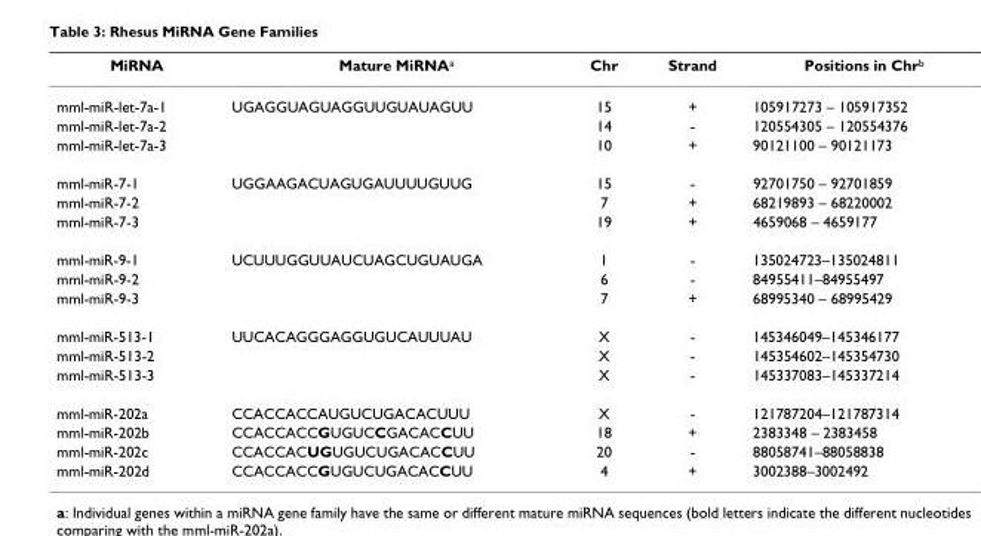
<table><thead><tr><td>MiRNA</td><td>Mature MiRNA<sup>a</sup></td><td>Chr</td><td>Strand</td><td>Positions in Chr<sup>b</sup></td></tr></thead><tbody><tr><td>mml-miR-let-7a-1</td><td>UGAGGUAGUAGGUUGUAUAGUU</td><td>15</td><td>+</td><td>105917273 – 105917352</td></tr><tr><td>mml-miR-let-7a-2</td><td></td><td>14</td><td>-</td><td>120554305 – 120554376</td></tr><tr><td>mml-miR-let-7a-3</td><td></td><td>10</td><td>+</td><td>90121100 – 90121173</td></tr><tr><td>mml-miR-7-1</td><td>UGGAAGACUAGUGAUUUUGUUG</td><td>15</td><td>-</td><td>92701750 – 92701859</td></tr><tr><td>mml-miR-7-2</td><td></td><td>7</td><td>+</td><td>68219893 – 68220002</td></tr><tr><td>mml-miR-7-3</td><td></td><td>19</td><td>+</td><td>4659068 – 4659177</td></tr><tr><td>mml-miR-9-1</td><td>UCUUUGGUUAUCUAGCUGUAUGA</td><td>1</td><td>-</td><td>135024723–135024811</td></tr><tr><td>mml-miR-9-2</td><td></td><td>6</td><td>-</td><td>84955411–84955497</td></tr><tr><td>mml-miR-9-3</td><td></td><td>7</td><td>+</td><td>68995340 – 68995429</td></tr><tr><td>mml-miR-513-1</td><td>UUCACAGGGAGGUGUCAUUUAU</td><td>X</td><td>-</td><td>145346049–145346177</td></tr><tr><td>mml-miR-513-2</td><td></td><td>X</td><td>-</td><td>145354602–145354730</td></tr><tr><td>mml-miR-513-3</td><td></td><td>X</td><td>-</td><td>145337083–145337214</td></tr><tr><td>mml-miR-202a</td><td>CCACCACCAUGUCUGACACUUU</td><td>X</td><td>-</td><td>121787204–121787314</td></tr><tr><td>mml-miR-202b</td><td>CCACCACCGUGUCCGACACCUU</td><td>18</td><td>+</td><td>2383348 – 2383458</td></tr><tr><td>mml-miR-202c</td><td>CCACCACUGUGUCUGACACCUU</td><td>20</td><td>-</td><td>88058741–88058838</td></tr><tr><td>mml-miR-202d</td><td>CCACCACCGUGUCUGACACCUU</td><td>4</td><td>+</td><td>3002388–3002492</td></tr></tbody></table>